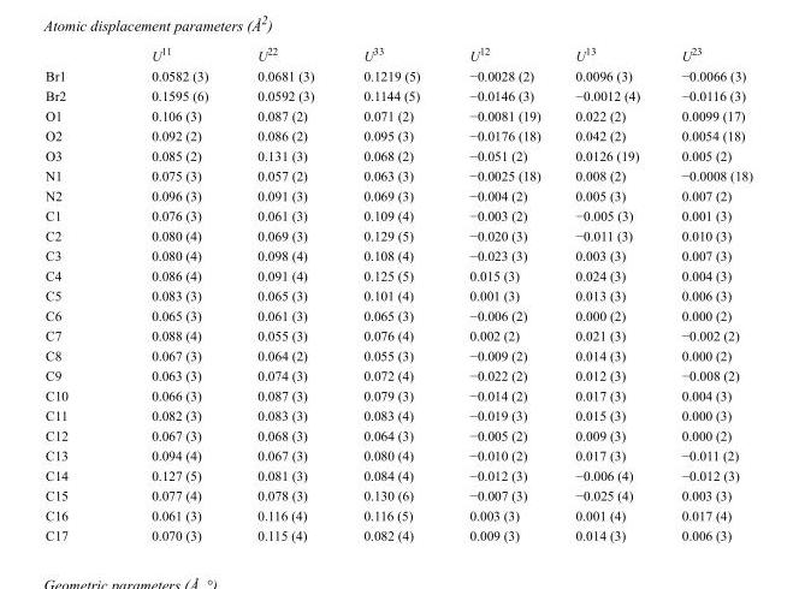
<table><thead><tr><td></td><td>U<sup>11</sup></td><td>U<sup>22</sup></td><td>U<sup>33</sup></td><td>U<sup>12</sup></td><td>U<sup>13</sup></td><td>U<sup>23</sup></td></tr></thead><tbody><tr><td>Br1</td><td>0.0582 (3)</td><td>0.0681 (3)</td><td>0.1219 (5)</td><td>−0.0028 (2)</td><td>0.0096 (3)</td><td>−0.0066 (3)</td></tr><tr><td>Br2</td><td>0.1595 (6)</td><td>0.0592 (3)</td><td>0.1144 (5)</td><td>−0.0146 (3)</td><td>−0.0012 (4)</td><td>−0.0116 (3)</td></tr><tr><td>O1</td><td>0.106 (3)</td><td>0.087 (2)</td><td>0.071 (2)</td><td>−0.0081 (19)</td><td>0.022 (2)</td><td>0.0099 (17)</td></tr><tr><td>O2</td><td>0.092 (2)</td><td>0.086 (2)</td><td>0.095 (3)</td><td>−0.0176 (18)</td><td>0.042 (2)</td><td>0.0054 (18)</td></tr><tr><td>O3</td><td>0.085 (2)</td><td>0.131 (3)</td><td>0.068 (2)</td><td>−0.051 (2)</td><td>0.0126 (19)</td><td>0.005 (2)</td></tr><tr><td>N1</td><td>0.075 (3)</td><td>0.057 (2)</td><td>0.063 (3)</td><td>−0.0025 (18)</td><td>0.008 (2)</td><td>−0.0008 (18)</td></tr><tr><td>N2</td><td>0.096 (3)</td><td>0.091 (3)</td><td>0.069 (3)</td><td>−0.004 (2)</td><td>0.005 (3)</td><td>0.007 (2)</td></tr><tr><td>C1</td><td>0.076 (3)</td><td>0.061 (3)</td><td>0.109 (4)</td><td>−0.003 (2)</td><td>−0.005 (3)</td><td>0.001 (3)</td></tr><tr><td>C2</td><td>0.080 (4)</td><td>0.069 (3)</td><td>0.129 (5)</td><td>−0.020 (3)</td><td>−0.011 (3)</td><td>0.010 (3)</td></tr><tr><td>C3</td><td>0.080 (4)</td><td>0.098 (4)</td><td>0.108 (4)</td><td>−0.023 (3)</td><td>0.003 (3)</td><td>0.007 (3)</td></tr><tr><td>C4</td><td>0.086 (4)</td><td>0.091 (4)</td><td>0.125 (5)</td><td>0.015 (3)</td><td>0.024 (3)</td><td>0.004 (3)</td></tr><tr><td>C5</td><td>0.083 (3)</td><td>0.065 (3)</td><td>0.101 (4)</td><td>0.001 (3)</td><td>0.013 (3)</td><td>0.006 (3)</td></tr><tr><td>C6</td><td>0.065 (3)</td><td>0.061 (3)</td><td>0.065 (3)</td><td>−0.006 (2)</td><td>0.000 (2)</td><td>0.000 (2)</td></tr><tr><td>C7</td><td>0.088 (4)</td><td>0.055 (3)</td><td>0.076 (4)</td><td>0.002 (2)</td><td>0.021 (3)</td><td>−0.002 (2)</td></tr><tr><td>C8</td><td>0.067 (3)</td><td>0.064 (2)</td><td>0.055 (3)</td><td>−0.009 (2)</td><td>0.014 (3)</td><td>0.000 (2)</td></tr><tr><td>C9</td><td>0.063 (3)</td><td>0.074 (3)</td><td>0.072 (4)</td><td>−0.022 (2)</td><td>0.012 (3)</td><td>−0.008 (2)</td></tr><tr><td>C10</td><td>0.066 (3)</td><td>0.087 (3)</td><td>0.079 (3)</td><td>−0.014 (2)</td><td>0.017 (3)</td><td>0.004 (3)</td></tr><tr><td>C11</td><td>0.082 (3)</td><td>0.083 (3)</td><td>0.083 (4)</td><td>−0.019 (3)</td><td>0.015 (3)</td><td>0.000 (3)</td></tr><tr><td>C12</td><td>0.067 (3)</td><td>0.068 (3)</td><td>0.064 (3)</td><td>−0.005 (2)</td><td>0.009 (3)</td><td>0.000 (2)</td></tr><tr><td>C13</td><td>0.094 (4)</td><td>0.067 (3)</td><td>0.080 (4)</td><td>−0.010 (2)</td><td>0.017 (3)</td><td>−0.011 (2)</td></tr><tr><td>C14</td><td>0.127 (5)</td><td>0.081 (3)</td><td>0.084 (4)</td><td>−0.012 (3)</td><td>−0.006 (4)</td><td>−0.012 (3)</td></tr><tr><td>C15</td><td>0.077 (4)</td><td>0.078 (3)</td><td>0.130 (6)</td><td>−0.007 (3)</td><td>−0.025 (4)</td><td>0.003 (3)</td></tr><tr><td>C16</td><td>0.061 (3)</td><td>0.116 (4)</td><td>0.116 (5)</td><td>0.003 (3)</td><td>0.001 (4)</td><td>0.017 (4)</td></tr><tr><td>C17</td><td>0.070 (3)</td><td>0.115 (4)</td><td>0.082 (4)</td><td>0.009 (3)</td><td>0.014 (3)</td><td>0.006 (3)</td></tr></tbody></table>